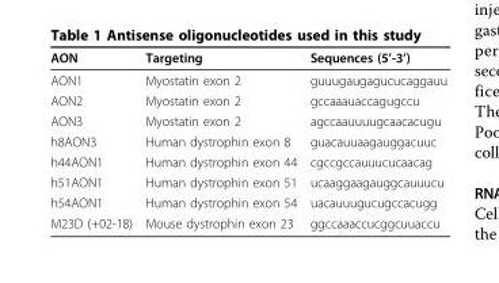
<table><thead><tr><td>AON</td><td>Targeting</td><td>Sequences (5’-3’)</td></tr></thead><tbody><tr><td>AON1</td><td>Myostatin exon 2</td><td>guuugaugagucucaggauu</td></tr><tr><td>AON2</td><td>Myostatin exon 2</td><td>gccaaauaccagugccu</td></tr><tr><td>AON3</td><td>Myostatin exon 2</td><td>agccaauuuugcaacacugu</td></tr><tr><td>h8AON3</td><td>Human dystrophin exon 8</td><td>guacauuaagauggacuuc</td></tr><tr><td>h44AON1</td><td>Human dystrophin exon 44</td><td>cgccgccauuucucaacag</td></tr><tr><td>h51AON1</td><td>Human dystrophin exon 51</td><td>ucaaggaagauggcauuucu</td></tr><tr><td>h54AON1</td><td>Human dystrophin exon 54</td><td>uacauuugucugccacugg</td></tr><tr><td>M23D (+02-18)</td><td>Mouse dystrophin exon 23</td><td>ggccaaaccucggcuuaccu</td></tr></tbody></table>